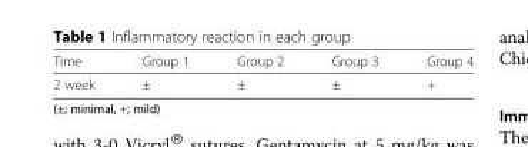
<table><thead><tr><td>Time</td><td>Group 1</td><td>Group 2</td><td>Group 3</td><td>Group 4</td></tr></thead><tbody><tr><td>2 week</td><td>±</td><td>±</td><td>±</td><td>+</td></tr></tbody></table>